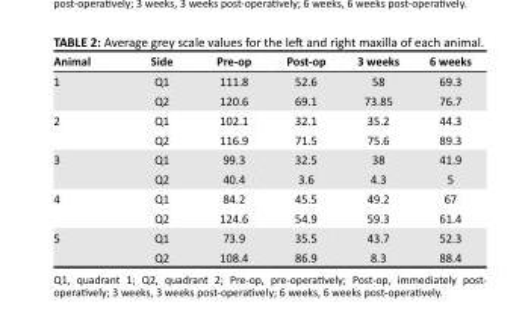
<table><thead><tr><td>Animal</td><td>Side</td><td>Pre-op</td><td>Post-op</td><td>3 weeks</td><td>6 weeks</td></tr></thead><tbody><tr><td rowspan="2">1</td><td>Q1</td><td>111.8</td><td>52.6</td><td>58</td><td>69.3</td></tr><tr><td>Q2</td><td>120.6</td><td>69.1</td><td>73.85</td><td>76.7</td></tr><tr><td rowspan="2">2</td><td>Q1</td><td>102.1</td><td>32.1</td><td>35.2</td><td>44.3</td></tr><tr><td>Q2</td><td>116.9</td><td>71.5</td><td>75.6</td><td>89.3</td></tr><tr><td rowspan="2">3</td><td>Q1</td><td>99.3</td><td>32.5</td><td>38</td><td>41.9</td></tr><tr><td>Q2</td><td>40.4</td><td>3.6</td><td>4.3</td><td>5</td></tr><tr><td rowspan="2">4</td><td>Q1</td><td>84.2</td><td>45.5</td><td>49.2</td><td>67</td></tr><tr><td>Q2</td><td>124.6</td><td>54.9</td><td>59.3</td><td>61.4</td></tr><tr><td rowspan="2">5</td><td>Q1</td><td>73.9</td><td>35.5</td><td>43.7</td><td>52.3</td></tr><tr><td>Q2</td><td>108.4</td><td>86.9</td><td>8.3</td><td>88.4</td></tr></tbody></table>